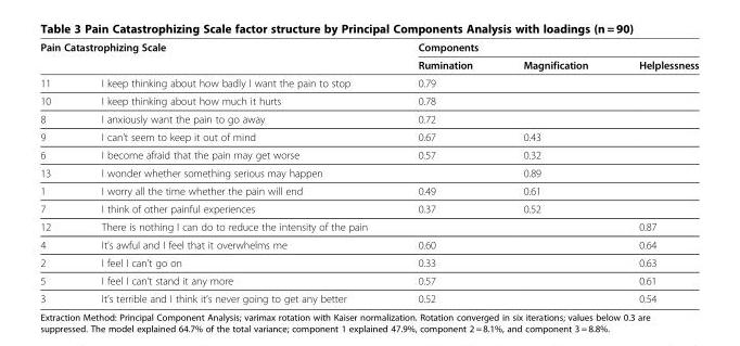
<table><thead><tr><td colspan="2">Pain Catastrophizing Scale</td><td colspan="3">Components</td></tr><tr><td></td><td></td><td>Rumination</td><td>Magnification</td><td>Helplessness</td></tr></thead><tbody><tr><td>11</td><td>I keep thinking about how badly I want the pain to stop</td><td>0.79</td><td></td><td></td></tr><tr><td>10</td><td>I keep thinking about how much it hurts</td><td>0.78</td><td></td><td></td></tr><tr><td>8</td><td>I anxiously want the pain to go away</td><td>0.72</td><td></td><td></td></tr><tr><td>9</td><td>I can’t seem to keep it out of mind</td><td>0.67</td><td>0.43</td><td></td></tr><tr><td>6</td><td>I become afraid that the pain may get worse</td><td>0.57</td><td>0.32</td><td></td></tr><tr><td>13</td><td>I wonder whether something serious may happen</td><td></td><td>0.89</td><td></td></tr><tr><td>1</td><td>I worry all the time whether the pain will end</td><td>0.49</td><td>0.61</td><td></td></tr><tr><td>7</td><td>I think of other painful experiences</td><td>0.37</td><td>0.52</td><td></td></tr><tr><td>12</td><td>There is nothing I can do to reduce the intensity of the pain</td><td></td><td></td><td>0.87</td></tr><tr><td>4</td><td>It’s awful and I feel that it overwhelms me</td><td>0.60</td><td></td><td>0.64</td></tr><tr><td>2</td><td>I feel I can’t go on</td><td>0.33</td><td></td><td>0.63</td></tr><tr><td>5</td><td>I feel I can’t stand it any more</td><td>0.57</td><td></td><td>0.61</td></tr><tr><td>3</td><td>It’s terrible and I think it’s never going to get any better</td><td>0.52</td><td></td><td>0.54</td></tr></tbody></table>